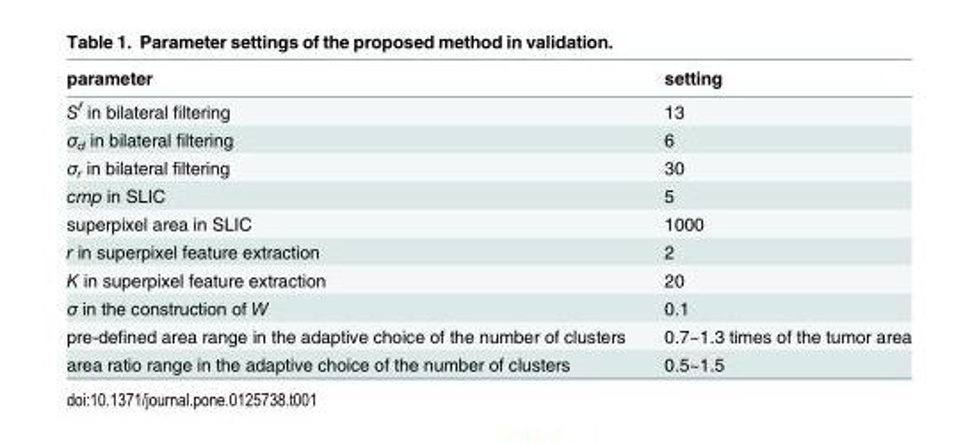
<table><thead><tr><td>parameter</td><td>setting</td></tr></thead><tbody><tr><td>S<sup>f</sup> in bilateral filtering</td><td>13</td></tr><tr><td>σ<sub>d</sub> in bilateral filtering</td><td>6</td></tr><tr><td>σ<sub>r</sub> in bilateral filtering</td><td>30</td></tr><tr><td>cmp in SLIC</td><td>5</td></tr><tr><td>superpixel area in SLIC</td><td>1000</td></tr><tr><td>r in superpixel feature extraction</td><td>2</td></tr><tr><td>K in superpixel feature extraction</td><td>20</td></tr><tr><td>σ in the construction of W</td><td>0.1</td></tr><tr><td>pre-defined area range in the adaptive choice of the number of clusters</td><td>0.7~1.3 times of the tumor area</td></tr><tr><td>area ratio range in the adaptive choice of the number of clusters</td><td>0.5~1.5</td></tr></tbody></table>